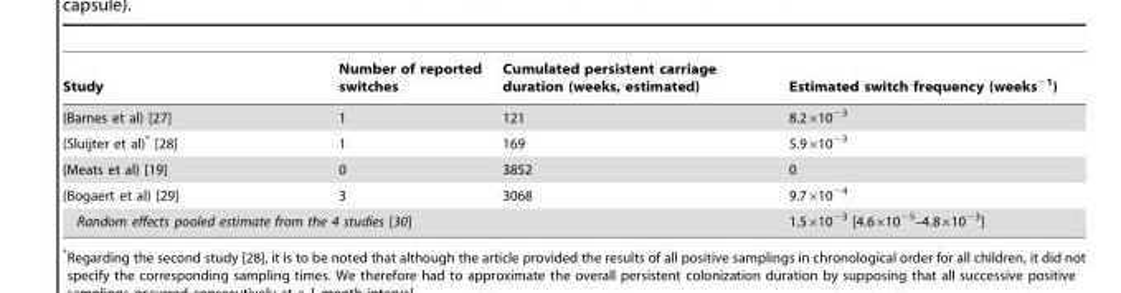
<table><thead><tr><td>Study</td><td>Number of reported switches</td><td>Cumulated persistent carriage duration (weeks, estimated)</td><td>Estimated switch frequency (weeks<sup>−1</sup>)</td></tr></thead><tbody><tr><td>(Barnes et al) [27]</td><td>1</td><td>121</td><td>8.2×10<sup>−3</sup></td></tr><tr><td>(Sluijter et al)* [28]</td><td>1</td><td>169</td><td>5.9×10<sup>−3</sup></td></tr><tr><td>(Meats et al) [19]</td><td>0</td><td>3852</td><td>0</td></tr><tr><td>(Bogaert et al) [29]</td><td>3</td><td>3068</td><td>9.7×10<sup>−4</sup></td></tr><tr><td colspan="3">Random effects pooled estimate from the 4 studies [30]</td><td>1.5×10<sup>−3</sup> [4.6×10<sup>−5</sup>–4.8×10<sup>−3</sup>]</td></tr></tbody></table>